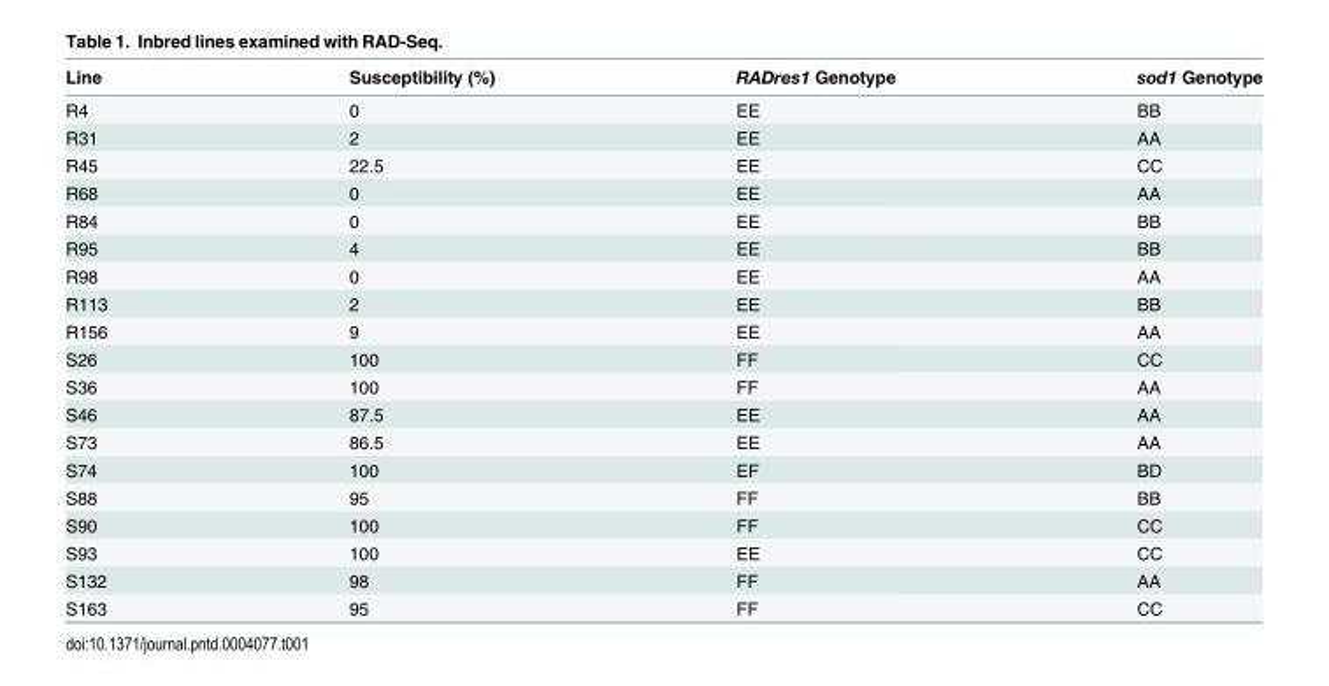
<table><thead><tr><td>Line</td><td>Susceptibility (%)</td><td>RADres1 Genotype</td><td>sod1 Genotype</td></tr></thead><tbody><tr><td>R4</td><td>0</td><td>EE</td><td>BB</td></tr><tr><td>R31</td><td>2</td><td>EE</td><td>AA</td></tr><tr><td>R45</td><td>22.5</td><td>EE</td><td>CC</td></tr><tr><td>R68</td><td>0</td><td>EE</td><td>AA</td></tr><tr><td>R84</td><td>0</td><td>EE</td><td>BB</td></tr><tr><td>R95</td><td>4</td><td>EE</td><td>BB</td></tr><tr><td>R98</td><td>0</td><td>EE</td><td>AA</td></tr><tr><td>R113</td><td>2</td><td>EE</td><td>BB</td></tr><tr><td>R156</td><td>9</td><td>EE</td><td>AA</td></tr><tr><td>S26</td><td>100</td><td>FF</td><td>CC</td></tr><tr><td>S36</td><td>100</td><td>FF</td><td>AA</td></tr><tr><td>S46</td><td>87.5</td><td>EE</td><td>AA</td></tr><tr><td>S73</td><td>86.5</td><td>EE</td><td>AA</td></tr><tr><td>S74</td><td>100</td><td>EF</td><td>BD</td></tr><tr><td>S88</td><td>95</td><td>FF</td><td>BB</td></tr><tr><td>S90</td><td>100</td><td>FF</td><td>CC</td></tr><tr><td>S93</td><td>100</td><td>EE</td><td>CC</td></tr><tr><td>S132</td><td>98</td><td>FF</td><td>AA</td></tr><tr><td>S163</td><td>95</td><td>FF</td><td>CC</td></tr></tbody></table>